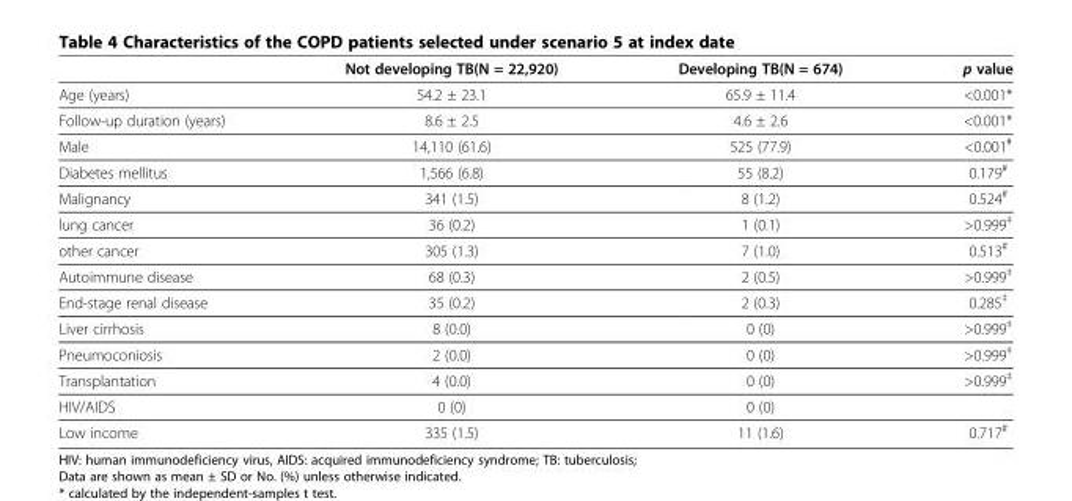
<table><thead><tr><td></td><td>Not developing TB(N = 22,920)</td><td>Developing TB(N = 674)</td><td>p value</td></tr></thead><tbody><tr><td>Age (years)</td><td>54.2 ± 23.1</td><td>65.9 ± 11.4</td><td>&lt;0.001*</td></tr><tr><td>Follow-up duration (years)</td><td>8.6 ± 2.5</td><td>4.6 ± 2.6</td><td>&lt;0.001*</td></tr><tr><td>Male</td><td>14,110 (61.6)</td><td>525 (77.9)</td><td>&lt;0.001<sup>#</sup></td></tr><tr><td>Diabetes mellitus</td><td>1,566 (6.8)</td><td>55 (8.2)</td><td>0.179<sup>#</sup></td></tr><tr><td>Malignancy</td><td>341 (1.5)</td><td>8 (1.2)</td><td>0.524<sup>#</sup></td></tr><tr><td>lung cancer</td><td>36 (0.2)</td><td>1 (0.1)</td><td>&gt;0.999<sup>‡</sup></td></tr><tr><td>other cancer</td><td>305 (1.3)</td><td>7 (1.0)</td><td>0.513<sup>#</sup></td></tr><tr><td>Autoimmune disease</td><td>68 (0.3)</td><td>2 (0.5)</td><td>&gt;0.999<sup>‡</sup></td></tr><tr><td>End-stage renal disease</td><td>35 (0.2)</td><td>2 (0.3)</td><td>0.285<sup>‡</sup></td></tr><tr><td>Liver cirrhosis</td><td>8 (0.0)</td><td>0 (0)</td><td>&gt;0.999<sup>‡</sup></td></tr><tr><td>Pneumoconiosis</td><td>2 (0.0)</td><td>0 (0)</td><td>&gt;0.999<sup>‡</sup></td></tr><tr><td>Transplantation</td><td>4 (0.0)</td><td>0 (0)</td><td>&gt;0.999<sup>‡</sup></td></tr><tr><td>HIV/AIDS</td><td>0 (0)</td><td>0 (0)</td><td></td></tr><tr><td>Low income</td><td>335 (1.5)</td><td>11 (1.6)</td><td>0.717<sup>#</sup></td></tr></tbody></table>